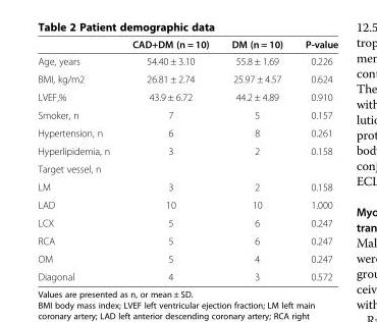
<table><thead><tr><td></td><td>CAD+DM (n = 10)</td><td>DM (n = 10)</td><td>P-value</td></tr></thead><tbody><tr><td>Age, years</td><td>54.40 ± 3.10</td><td>55.8 ± 1.69</td><td>0.226</td></tr><tr><td>BMI, kg/m2</td><td>26.81 ± 2.74</td><td>25.97 ± 4.57</td><td>0.624</td></tr><tr><td>LVEF,%</td><td>43.9 ± 6.72</td><td>44.2 ± 4.89</td><td>0.910</td></tr><tr><td>Smoker, n</td><td>7</td><td>5</td><td>0.157</td></tr><tr><td>Hypertension, n</td><td>6</td><td>8</td><td>0.261</td></tr><tr><td>Hyperlipidemia, n</td><td>3</td><td>2</td><td>0.158</td></tr><tr><td colspan="4">Target vessel, n</td></tr><tr><td>LM</td><td>3</td><td>2</td><td>0.158</td></tr><tr><td>LAD</td><td>10</td><td>10</td><td>1.000</td></tr><tr><td>LCX</td><td>5</td><td>6</td><td>0.247</td></tr><tr><td>RCA</td><td>5</td><td>6</td><td>0.247</td></tr><tr><td>OM</td><td>5</td><td>4</td><td>0.247</td></tr><tr><td>Diagonal</td><td>4</td><td>3</td><td>0.572</td></tr></tbody></table>